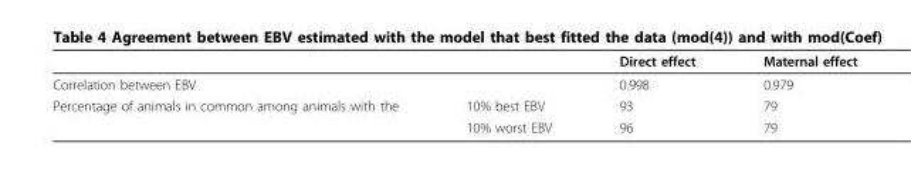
<table><thead><tr><td></td><td></td><td>Direct effect</td><td>Maternal effect</td></tr></thead><tbody><tr><td colspan="2">Correlation between EBV</td><td>0.998</td><td>0.979</td></tr><tr><td rowspan="2">Percentage of animals in common among animals with the</td><td>10% best EBV</td><td>93</td><td>79</td></tr><tr><td>10% worst EBV</td><td>96</td><td>79</td></tr></tbody></table>